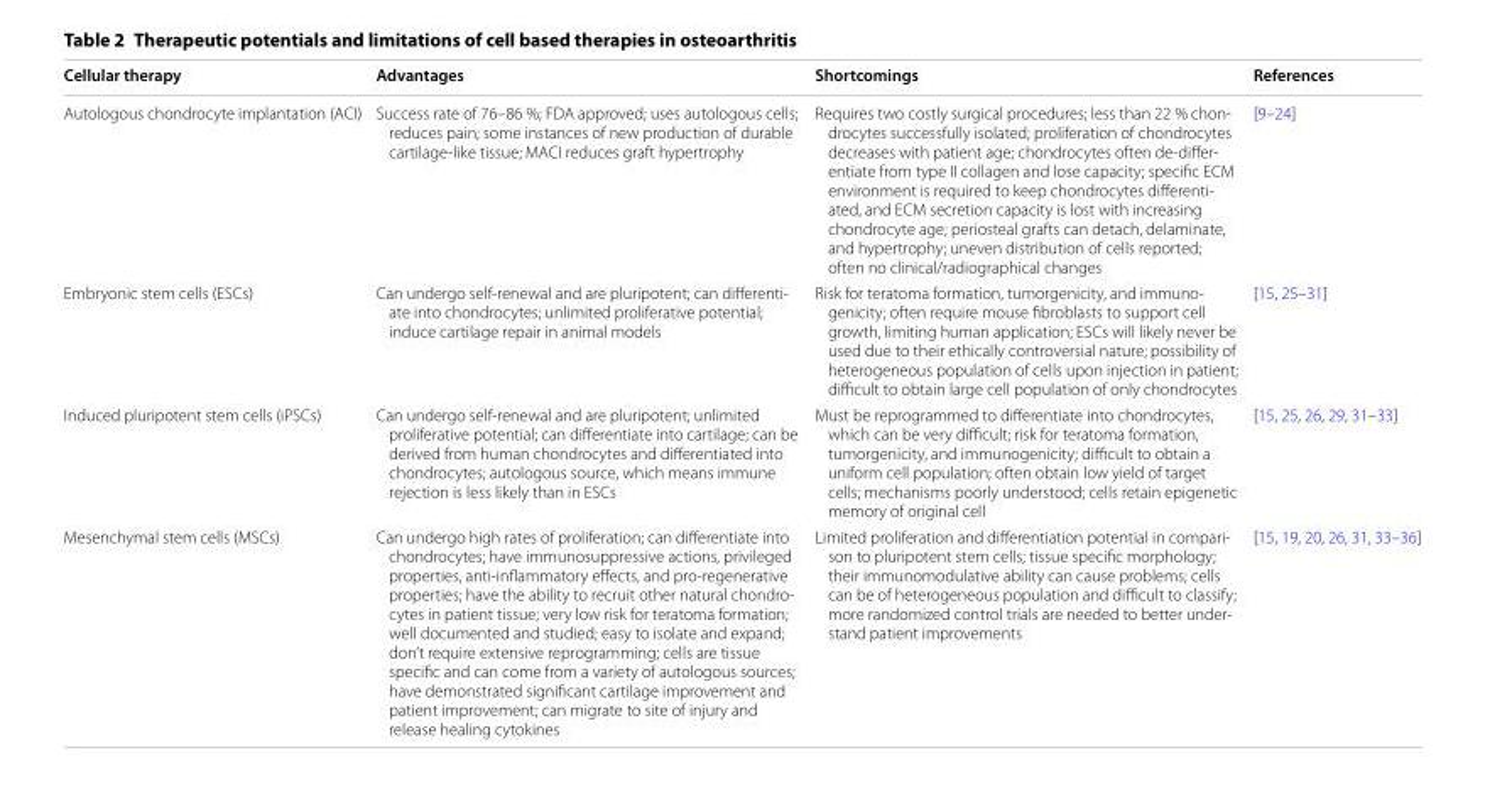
<table><thead><tr><td>Cellular therapy</td><td>Advantages</td><td>Shortcomings</td><td>References</td></tr></thead><tbody><tr><td>Autologous chondrocyte implantation (ACI)</td><td>Success rate of 76–86 %; FDA approved; uses autologous cells; reduces pain; some instances of new production of durable cartilage-like tissue; MACI reduces graft hypertrophy</td><td>Requires two costly surgical procedures; less than 22 % chon- drocytes successfully isolated; proliferation of chondrocytes decreases with patient age; chondrocytes often de-differ- entiate from type II collagen and lose capacity; specific ECM environment is required to keep chondrocytes differenti- ated, and ECM secretion capacity is lost with increasing chondrocyte age; periosteal grafts can detach, delaminate, and hypertrophy; uneven distribution of cells reported; often no clinical/radiographical changes</td><td>[9–24]</td></tr><tr><td>Embryonic stem cells (ESCs)</td><td>Can undergo self-renewal and are pluripotent; can differenti- ate into chondrocytes; unlimited proliferative potential; induce cartilage repair in animal models</td><td>Risk for teratoma formation, tumorgenicity, and immuno- genicity; often require mouse fibroblasts to support cell growth, limiting human application; ESCs will likely never be used due to their ethically controversial nature; possibility of heterogeneous population of cells upon injection in patient; difficult to obtain large cell population of only chondrocytes</td><td>[15, 25–31]</td></tr><tr><td>Induced pluripotent stem cells (iPSCs)</td><td>Can undergo self-renewal and are pluripotent; unlimited proliferative potential; can differentiate into cartilage; can be derived from human chondrocytes and differentiated into chondrocytes; autologous source, which means immune rejection is less likely than in ESCs</td><td>Must be reprogrammed to differentiate into chondrocytes, which can be very difficult; risk for teratoma formation, tumorgenicity, and immunogenicity; difficult to obtain a uniform cell population; often obtain low yield of target cells; mechanisms poorly understood; cells retain epigenetic memory of original cell</td><td>[15, 25, 26, 29, 31–33]</td></tr><tr><td>Mesenchymal stem cells (MSCs)</td><td>Can undergo high rates of proliferation; can differentiate into chondrocytes; have immunosuppressive actions, privileged properties, anti-inflammatory effects, and pro-regenerative properties; have the ability to recruit other natural chondro- cytes in patient tissue; very low risk for teratoma formation; well documented and studied; easy to isolate and expand; don’t require extensive reprogramming; cells are tissue specific and can come from a variety of autologous sources; have demonstrated significant cartilage improvement and patient improvement; can migrate to site of injury and release healing cytokines</td><td>Limited proliferation and differentiation potential in compari- son to pluripotent stem cells; tissue specific morphology; their immunomodulative ability can cause problems; cells can be of heterogeneous population and difficult to classify; more randomized control trials are needed to better under- stand patient improvements</td><td>[15, 19, 20, 26, 31, 33–36]</td></tr></tbody></table>